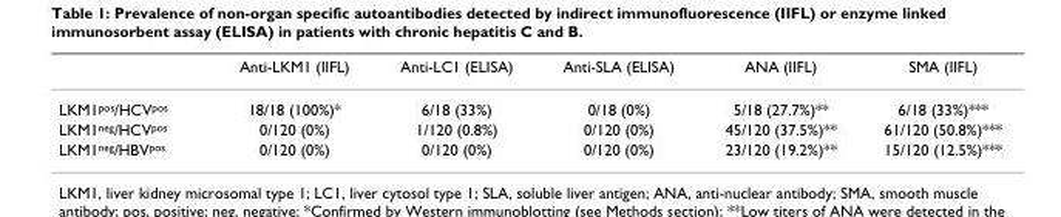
<table><thead><tr><td></td><td>Anti-LKM1 (IIFL)</td><td>Anti-LC1 (ELISA)</td><td>Anti-SLA (ELISA)</td><td>ANA (IIFL)</td><td>SMA (IIFL)</td></tr></thead><tbody><tr><td>LKM1<sup>pos</sup>/HCV<sup>pos</sup></td><td>18/18 (100%)*</td><td>6/18 (33%)</td><td>0/18 (0%)</td><td>5/18 (27.7%)**</td><td>6/18 (33%)***</td></tr><tr><td>LKM1<sup>neg</sup>/HCV<sup>pos</sup></td><td>0/120 (0%)</td><td>1/120 (0.8%)</td><td>0/120 (0%)</td><td>45/120 (37.5%)**</td><td>61/120 (50.8%)***</td></tr><tr><td>LKM1<sup>neg</sup>/HBV<sup>pos</sup></td><td>0/120 (0%)</td><td>0/120 (0%)</td><td>0/120 (0%)</td><td>23/120 (19.2%)**</td><td>15/120 (12.5%)***</td></tr></tbody></table>